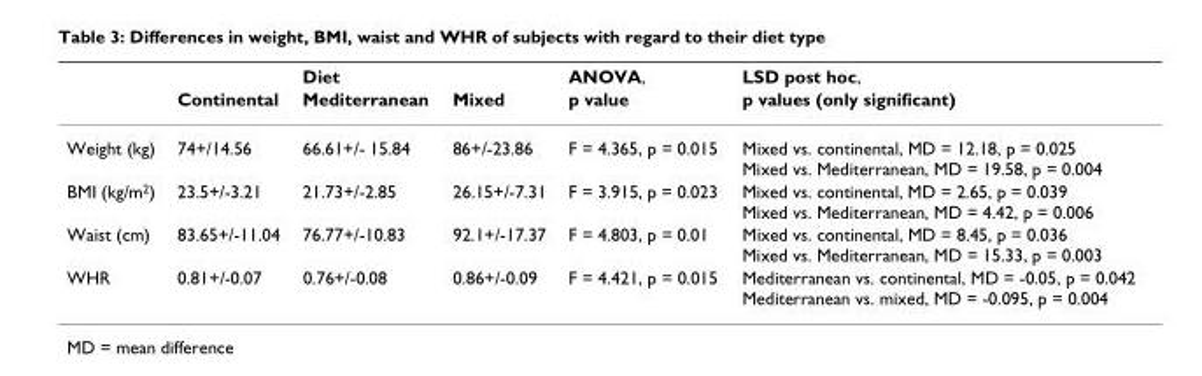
<table><thead><tr><td rowspan="2"></td><td rowspan="2">Continental</td><td rowspan="2">Diet Mediterranean</td><td rowspan="2">Mixed</td><td rowspan="2">ANOVA, p value</td><td rowspan="2">LSD post hoc, p values (only significant)</td></tr><tr></tr></thead><tbody><tr><td>Weight (kg)</td><td>74+/14.56</td><td>66.61+/- 15.84</td><td>86+/-23.86</td><td>F = 4.365, p = 0.015</td><td>Mixed vs. continental, MD = 12.18, p = 0.025 Mixed vs. Mediterranean, MD = 19.58, p = 0.004</td></tr><tr><td>BMI (kg/m<sup>2</sup>)</td><td>23.5+/-3.21</td><td>21.73+/-2.85</td><td>26.15+/-7.31</td><td>F = 3.915, p = 0.023</td><td>Mixed vs. continental, MD = 2.65, p = 0.039 Mixed vs. Mediterranean, MD = 4.42, p = 0.006</td></tr><tr><td>Waist (cm)</td><td>83.65+/-11.04</td><td>76.77+/-10.83</td><td>92.1+/-17.37</td><td>F = 4.803, p = 0.01</td><td>Mixed vs. continental, MD = 8.45, p = 0.036 Mixed vs. Mediterranean, MD = 15.33, p = 0.003</td></tr><tr><td>WHR</td><td>0.81+/-0.07</td><td>0.76+/-0.08</td><td>0.86+/-0.09</td><td>F = 4.421, p = 0.015</td><td>Mediterranean vs. continental, MD = -0.05, p = 0.042 Mediterranean vs. mixed, MD = -0.095, p = 0.004</td></tr></tbody></table>